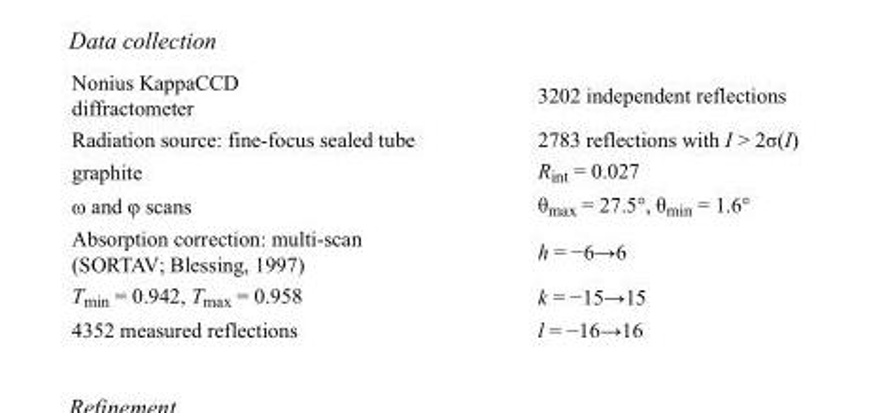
<table><tbody><tr><td>Nonius KappaCCD diffractometer</td><td>3202 independent reflections</td></tr><tr><td>Radiation source: fine-focus sealed tube</td><td>2783 reflections with I &gt; 2σ(I)</td></tr><tr><td>graphite</td><td>R<sub>int</sub> = 0.027</td></tr><tr><td>ω and φ scans</td><td>θ<sub>max</sub> = 27.5°, θ<sub>min</sub> = 1.6°</td></tr><tr><td>Absorption correction: multi-scan (SORTAV; Blessing, 1997)</td><td>h = −6→6</td></tr><tr><td>T<sub>min</sub> = 0.942, T<sub>max</sub> = 0.958</td><td>k = −15→15</td></tr><tr><td>4352 measured reflections</td><td>l = −16→16</td></tr></tbody></table>